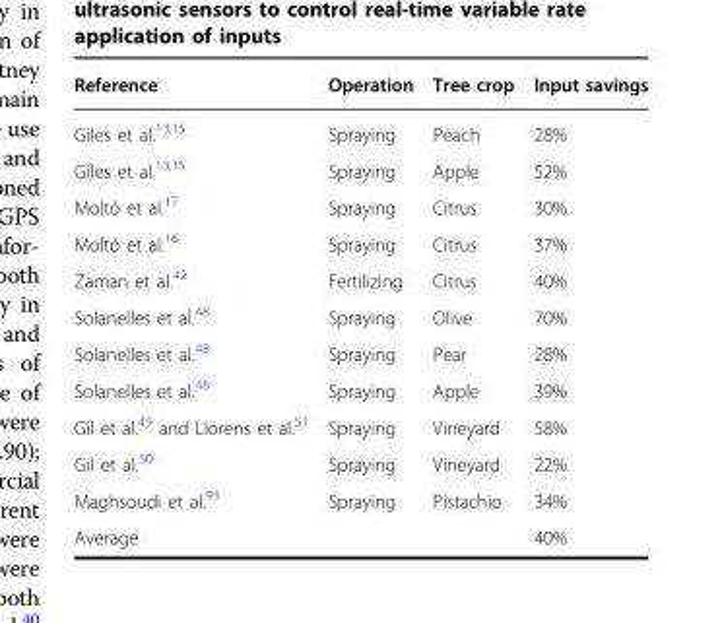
<table><thead><tr><td>Reference</td><td>Operation</td><td>Tree crop</td><td>Input savings</td></tr></thead><tbody><tr><td>Giles et al.<sup>13,15</sup></td><td>Spraying</td><td>Peach</td><td>28%</td></tr><tr><td>Giles et al.<sup>13,15</sup></td><td>Spraying</td><td>Apple</td><td>52%</td></tr><tr><td>Moltó et al.<sup>17</sup></td><td>Spraying</td><td>Citrus</td><td>30%</td></tr><tr><td>Moltó et al.<sup>16</sup></td><td>Spraying</td><td>Citrus</td><td>37%</td></tr><tr><td>Zaman et al.<sup>42</sup></td><td>Fertilizing</td><td>Citrus</td><td>40%</td></tr><tr><td>Solanelles et al.<sup>48</sup></td><td>Spraying</td><td>Olive</td><td>70%</td></tr><tr><td>Solanelles et al.<sup>48</sup></td><td>Spraying</td><td>Pear</td><td>28%</td></tr><tr><td>Solanelles et al.<sup>48</sup></td><td>Spraying</td><td>Apple</td><td>39%</td></tr><tr><td>Gil et al.<sup>49</sup> and Llorens et al.<sup>51</sup></td><td>Spraying</td><td>Vineyard</td><td>58%</td></tr><tr><td>Gil et al.<sup>50</sup></td><td>Spraying</td><td>Vineyard</td><td>22%</td></tr><tr><td>Maghsoudi et al.<sup>93</sup></td><td>Spraying</td><td>Pistachio</td><td>34%</td></tr><tr><td>Average</td><td></td><td></td><td>40%</td></tr></tbody></table>